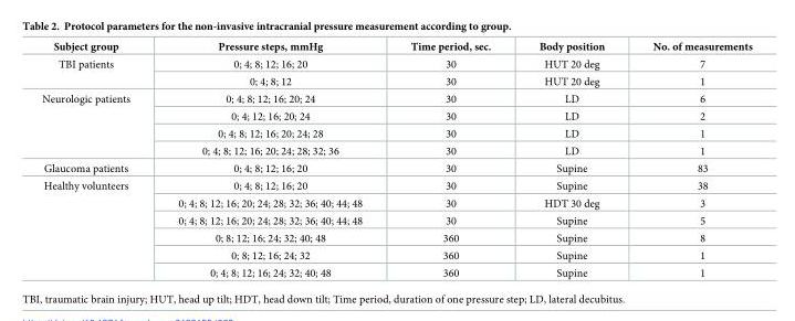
<table><thead><tr><td>Subject group</td><td>Pressure steps, mmHg</td><td>Time period, sec.</td><td>Body position</td><td>No. of measurements</td></tr></thead><tbody><tr><td rowspan="2">TBI patients</td><td>0; 4; 8; 12; 16; 20</td><td>30</td><td>HUT 20 deg</td><td>7</td></tr><tr><td>0; 4; 8; 12</td><td>30</td><td>HUT 20 deg</td><td>1</td></tr><tr><td rowspan="4">Neurologic patients</td><td>0; 4; 8; 12; 16; 20; 24</td><td>30</td><td>LD</td><td>6</td></tr><tr><td>0; 4; 12; 16; 20; 24</td><td>30</td><td>LD</td><td>2</td></tr><tr><td>0; 4; 8; 12; 16; 20; 24; 28</td><td>30</td><td>LD</td><td>1</td></tr><tr><td>0; 4; 8; 12; 16; 20; 24; 28; 32; 36</td><td>30</td><td>LD</td><td>1</td></tr><tr><td>Glaucoma patients</td><td>0; 4; 8; 12; 16; 20</td><td>30</td><td>Supine</td><td>83</td></tr><tr><td rowspan="6">Healthy volunteers</td><td>0; 4; 8; 12; 16; 20</td><td>30</td><td>Supine</td><td>38</td></tr><tr><td>0; 4; 8; 12; 16; 20; 24; 28; 32; 36; 40; 44; 48</td><td>30</td><td>HDT 30 deg</td><td>3</td></tr><tr><td>0; 4; 8; 12; 16; 20; 24; 28; 32; 36; 40; 44; 48</td><td>30</td><td>Supine</td><td>5</td></tr><tr><td>0; 8; 12; 16; 24; 32; 40; 48</td><td>360</td><td>Supine</td><td>8</td></tr><tr><td>0; 8; 12; 16; 24; 32</td><td>360</td><td>Supine</td><td>1</td></tr><tr><td>0; 4; 8; 12; 16; 24; 32; 40; 48</td><td>360</td><td>Supine</td><td>1</td></tr></tbody></table>